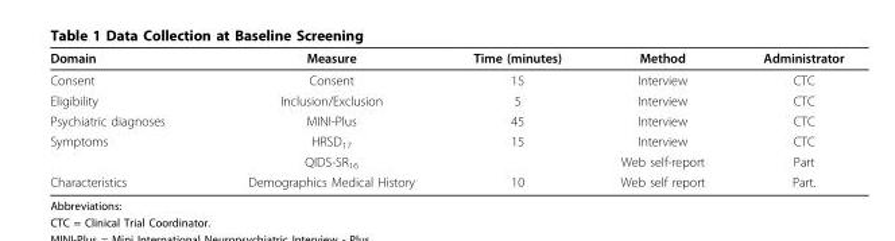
<table><thead><tr><td>Domain</td><td>Measure</td><td>Time (minutes)</td><td>Method</td><td>Administrator</td></tr></thead><tbody><tr><td>Consent</td><td>Consent</td><td>15</td><td>Interview</td><td>CTC</td></tr><tr><td>Eligibility</td><td>Inclusion/Exclusion</td><td>5</td><td>Interview</td><td>CTC</td></tr><tr><td>Psychiatric diagnoses</td><td>MINI-Plus</td><td>45</td><td>Interview</td><td>CTC</td></tr><tr><td rowspan="2">Symptoms</td><td>HRSD<sub>17</sub></td><td>15</td><td>Interview</td><td>CTC</td></tr><tr><td>QIDS-SR<sub>16</sub></td><td></td><td>Web self-report</td><td>Part</td></tr><tr><td>Characteristics</td><td>Demographics Medical History</td><td>10</td><td>Web self report</td><td>Part.</td></tr></tbody></table>